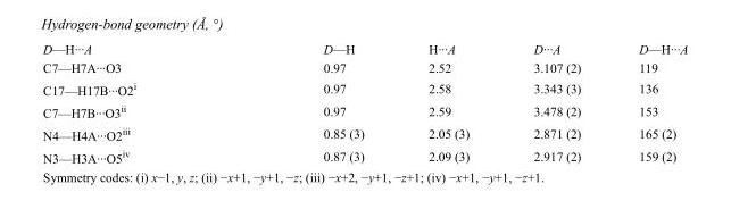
<table><tbody><tr><td>D—H···A</td><td>D—H</td><td>H···A</td><td>D···A</td><td>D—H···A</td></tr><tr><td>C7—H7A···O3</td><td>0.97</td><td>2.52</td><td>3.107 (2)</td><td>119</td></tr><tr><td>C17—H17B···O2<sup>i</sup></td><td>0.97</td><td>2.58</td><td>3.343 (3)</td><td>136</td></tr><tr><td>C7—H7B···O3<sup>ii</sup></td><td>0.97</td><td>2.59</td><td>3.478 (2)</td><td>153</td></tr><tr><td>N4—H4A···O2<sup>iii</sup></td><td>0.85 (3)</td><td>2.05 (3)</td><td>2.871 (2)</td><td>165 (2)</td></tr><tr><td>N3—H3A···O5<sup>iv</sup></td><td>0.87 (3)</td><td>2.09 (3)</td><td>2.917 (2)</td><td>159 (2)</td></tr></tbody></table>